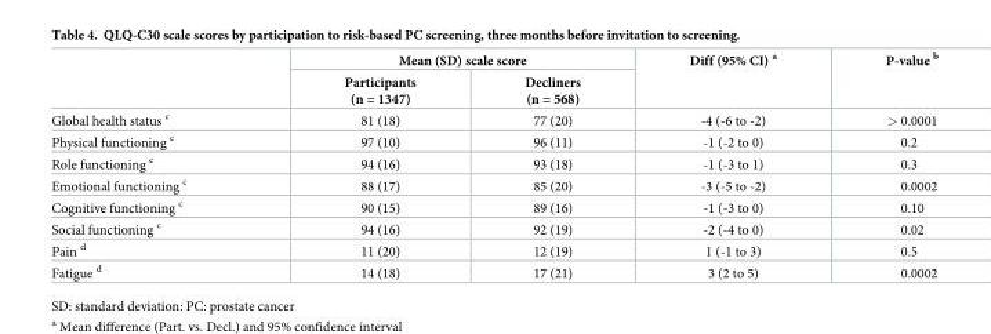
<table><thead><tr><td rowspan="2"></td><td colspan="2">Mean (SD) scale score</td><td rowspan="2">Diff (95% CI) <sup>a</sup></td><td rowspan="2">P-value <sup>b</sup></td></tr><tr><td>Participants (n = 1347)</td><td>Decliners (n = 568)</td></tr></thead><tbody><tr><td>Global health status <sup>c</sup></td><td>81 (18)</td><td>77 (20)</td><td>-4 (-6 to -2)</td><td>&gt; 0.0001</td></tr><tr><td>Physical functioning <sup>c</sup></td><td>97 (10)</td><td>96 (11)</td><td>-1 (-2 to 0)</td><td>0.2</td></tr><tr><td>Role functioning <sup>c</sup></td><td>94 (16)</td><td>93 (18)</td><td>-1 (-3 to 1)</td><td>0.3</td></tr><tr><td>Emotional functioning <sup>c</sup></td><td>88 (17)</td><td>85 (20)</td><td>-3 (-5 to -2)</td><td>0.0002</td></tr><tr><td>Cognitive functioning <sup>c</sup></td><td>90 (15)</td><td>89 (16)</td><td>-1 (-3 to 0)</td><td>0.10</td></tr><tr><td>Social functioning <sup>c</sup></td><td>94 (16)</td><td>92 (19)</td><td>-2 (-4 to 0)</td><td>0.02</td></tr><tr><td>Pain <sup>d</sup></td><td>11 (20)</td><td>12 (19)</td><td>1 (-1 to 3)</td><td>0.5</td></tr><tr><td>Fatigue <sup>d</sup></td><td>14 (18)</td><td>17 (21)</td><td>3 (2 to 5)</td><td>0.0002</td></tr></tbody></table>